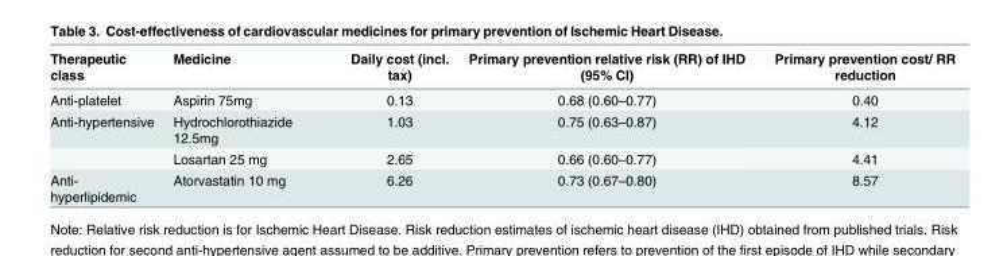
<table><thead><tr><td>Therapeutic class</td><td>Medicine</td><td>Daily cost (incl. tax)</td><td>Primary prevention relative risk (RR) of IHD (95% CI)</td><td>Primary prevention cost/ RR reduction</td></tr></thead><tbody><tr><td>Anti-platelet</td><td>Aspirin 75mg</td><td>0.13</td><td>0.68 (0.60–0.77)</td><td>0.40</td></tr><tr><td rowspan="2">Anti-hypertensive</td><td>Hydrochlorothiazide 12.5mg</td><td>1.03</td><td>0.75 (0.63–0.87)</td><td>4.12</td></tr><tr><td>Losartan 25 mg</td><td>2.65</td><td>0.66 (0.60–0.77)</td><td>4.41</td></tr><tr><td>Anti- hyperlipidemic</td><td>Atorvastatin 10 mg</td><td>6.26</td><td>0.73 (0.67–0.80)</td><td>8.57</td></tr></tbody></table>